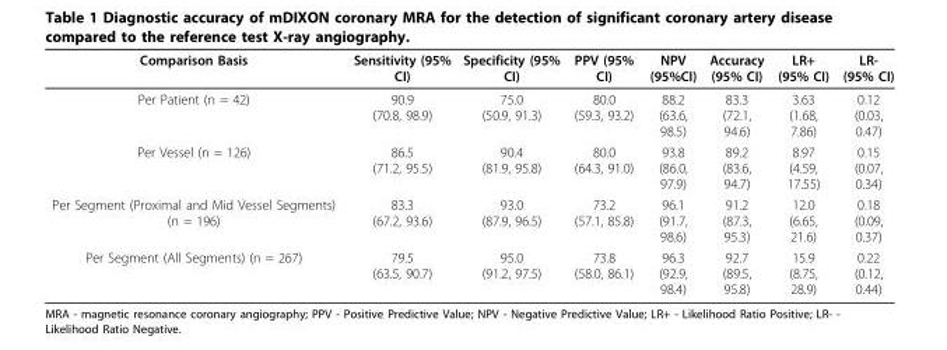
<table><thead><tr><td>Comparison Basis</td><td>Sensitivity (95% CI)</td><td>Specificity (95% CI)</td><td>PPV (95% CI)</td><td>NPV (95%CI)</td><td>Accuracy (95% CI)</td><td>LR+ (95% CI)</td><td>LR- (95% CI)</td></tr></thead><tbody><tr><td>Per Patient (n = 42)</td><td>90.9 (70.8, 98.9)</td><td>75.0 (50.9, 91.3)</td><td>80.0 (59.3, 93.2)</td><td>88.2 (63.6, 98.5)</td><td>83.3 (72.1, 94.6)</td><td>3.63 (1.68, 7.86)</td><td>0.12 (0.03, 0.47)</td></tr><tr><td>Per Vessel (n = 126)</td><td>86.5 (71.2, 95.5)</td><td>90.4 (81.9, 95.8)</td><td>80.0 (64.3, 91.0)</td><td>93.8 (86.0, 97.9)</td><td>89.2 (83.6, 94.7)</td><td>8.97 (4.59, 17.55)</td><td>0.15 (0.07, 0.34)</td></tr><tr><td>Per Segment (Proximal and Mid Vessel Segments) (n = 196)</td><td>83.3 (67.2, 93.6)</td><td>93.0 (87.9, 96.5)</td><td>73.2 (57.1, 85.8)</td><td>96.1 (91.7, 98.6)</td><td>91.2 (87.3, 95.3)</td><td>12.0 (6.65, 21.6)</td><td>0.18 (0.09, 0.37)</td></tr><tr><td>Per Segment (All Segments) (n = 267)</td><td>79.5 (63.5, 90.7)</td><td>95.0 (91.2, 97.5)</td><td>73.8 (58.0, 86.1)</td><td>96.3 (92.9, 98.4)</td><td>92.7 (89.5, 95.8)</td><td>15.9 (8.75, 28.9)</td><td>0.22 (0.12, 0.44)</td></tr></tbody></table>